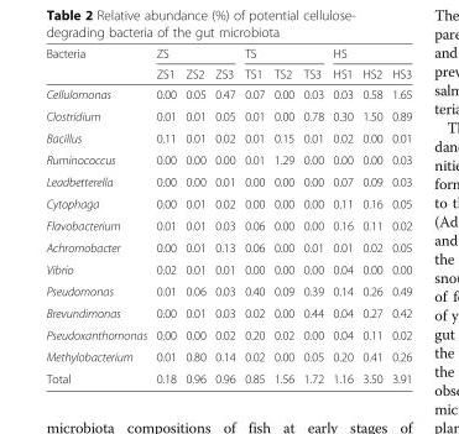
<table><thead><tr><td rowspan="2">Bacteria</td><td colspan="3">ZS</td><td colspan="3">TS</td><td colspan="3">HS</td></tr><tr><td>ZS1</td><td>ZS2</td><td>ZS3</td><td>TS1</td><td>TS2</td><td>TS3</td><td>HS1</td><td>HS2</td><td>HS3</td></tr></thead><tbody><tr><td>Cellulomonas</td><td>0.00</td><td>0.05</td><td>0.47</td><td>0.07</td><td>0.00</td><td>0.03</td><td>0.03</td><td>0.58</td><td>1.65</td></tr><tr><td>Clostridium</td><td>0.01</td><td>0.01</td><td>0.05</td><td>0.01</td><td>0.00</td><td>0.78</td><td>0.30</td><td>1.50</td><td>0.89</td></tr><tr><td>Bacillus</td><td>0.11</td><td>0.01</td><td>0.02</td><td>0.01</td><td>0.15</td><td>0.01</td><td>0.02</td><td>0.00</td><td>0.01</td></tr><tr><td>Ruminococcus</td><td>0.00</td><td>0.00</td><td>0.00</td><td>0.01</td><td>1.29</td><td>0.00</td><td>0.00</td><td>0.00</td><td>0.03</td></tr><tr><td>Leadbetterella</td><td>0.00</td><td>0.00</td><td>0.01</td><td>0.00</td><td>0.00</td><td>0.00</td><td>0.07</td><td>0.09</td><td>0.03</td></tr><tr><td>Cytophaga</td><td>0.00</td><td>0.01</td><td>0.02</td><td>0.00</td><td>0.00</td><td>0.00</td><td>0.11</td><td>0.16</td><td>0.05</td></tr><tr><td>Flavobacterium</td><td>0.01</td><td>0.01</td><td>0.03</td><td>0.06</td><td>0.00</td><td>0.00</td><td>0.16</td><td>0.11</td><td>0.02</td></tr><tr><td>Achromobacter</td><td>0.00</td><td>0.01</td><td>0.13</td><td>0.06</td><td>0.00</td><td>0.01</td><td>0.01</td><td>0.02</td><td>0.05</td></tr><tr><td>Vibrio</td><td>0.02</td><td>0.01</td><td>0.01</td><td>0.00</td><td>0.00</td><td>0.00</td><td>0.04</td><td>0.00</td><td>0.00</td></tr><tr><td>Pseudomonas</td><td>0.01</td><td>0.06</td><td>0.03</td><td>0.40</td><td>0.09</td><td>0.39</td><td>0.14</td><td>0.26</td><td>0.49</td></tr><tr><td>Brevundimonas</td><td>0.00</td><td>0.01</td><td>0.03</td><td>0.02</td><td>0.00</td><td>0.44</td><td>0.04</td><td>0.27</td><td>0.42</td></tr><tr><td>Pseudoxanthomonas</td><td>0.00</td><td>0.00</td><td>0.02</td><td>0.20</td><td>0.02</td><td>0.00</td><td>0.04</td><td>0.11</td><td>0.02</td></tr><tr><td>Methylobacterium</td><td>0.01</td><td>0.80</td><td>0.14</td><td>0.02</td><td>0.00</td><td>0.05</td><td>0.20</td><td>0.41</td><td>0.26</td></tr><tr><td>Total</td><td>0.18</td><td>0.96</td><td>0.96</td><td>0.85</td><td>1.56</td><td>1.72</td><td>1.16</td><td>3.50</td><td>3.91</td></tr></tbody></table>